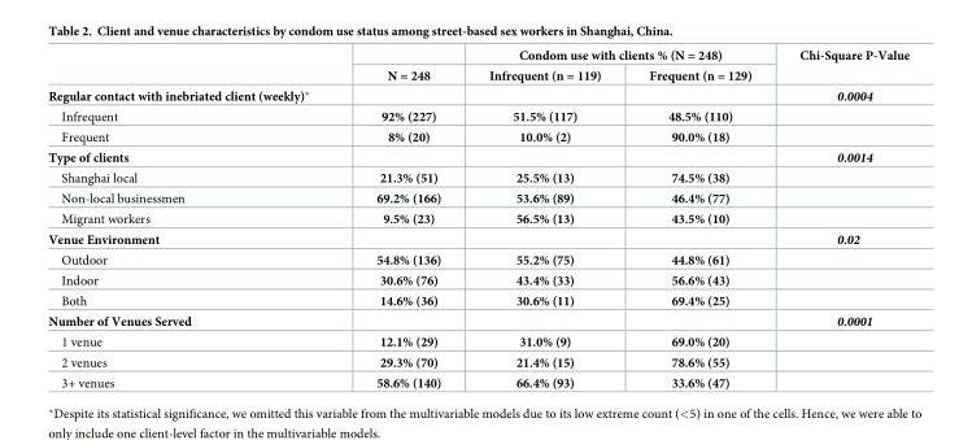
<table><thead><tr><td rowspan="2"></td><td rowspan="2">N = 248</td><td colspan="2">Condom use with clients % (N = 248)</td><td rowspan="2">Chi-Square P-Value</td></tr><tr><td>Infrequent (n = 119)</td><td>Frequent (n = 129)</td></tr></thead><tbody><tr><td>Regular contact with inebriated client (weekly)*</td><td></td><td></td><td></td><td>0.0004</td></tr><tr><td>Infrequent</td><td>92% (227)</td><td>51.5% (117)</td><td>48.5% (110)</td><td></td></tr><tr><td>Frequent</td><td>8% (20)</td><td>10.0% (2)</td><td>90.0% (18)</td><td></td></tr><tr><td>Type of clients</td><td></td><td></td><td></td><td>0.0014</td></tr><tr><td>Shanghai local</td><td>21.3% (51)</td><td>25.5% (13)</td><td>74.5% (38)</td><td></td></tr><tr><td>Non-local businessmen</td><td>69.2% (166)</td><td>53.6% (89)</td><td>46.4% (77)</td><td></td></tr><tr><td>Migrant workers</td><td>9.5% (23)</td><td>56.5% (13)</td><td>43.5% (10)</td><td></td></tr><tr><td>Venue Environment</td><td></td><td></td><td></td><td>0.02</td></tr><tr><td>Outdoor</td><td>54.8% (136)</td><td>55.2% (75)</td><td>44.8% (61)</td><td></td></tr><tr><td>Indoor</td><td>30.6% (76)</td><td>43.4% (33)</td><td>56.6% (43)</td><td></td></tr><tr><td>Both</td><td>14.6% (36)</td><td>30.6% (11)</td><td>69.4% (25)</td><td></td></tr><tr><td>Number of Venues Served</td><td></td><td></td><td></td><td>0.0001</td></tr><tr><td>1 venue</td><td>12.1% (29)</td><td>31.0% (9)</td><td>69.0% (20)</td><td></td></tr><tr><td>2 venues</td><td>29.3% (70)</td><td>21.4% (15)</td><td>78.6% (55)</td><td></td></tr><tr><td>3+ venues</td><td>58.6% (140)</td><td>66.4% (93)</td><td>33.6% (47)</td><td></td></tr></tbody></table>